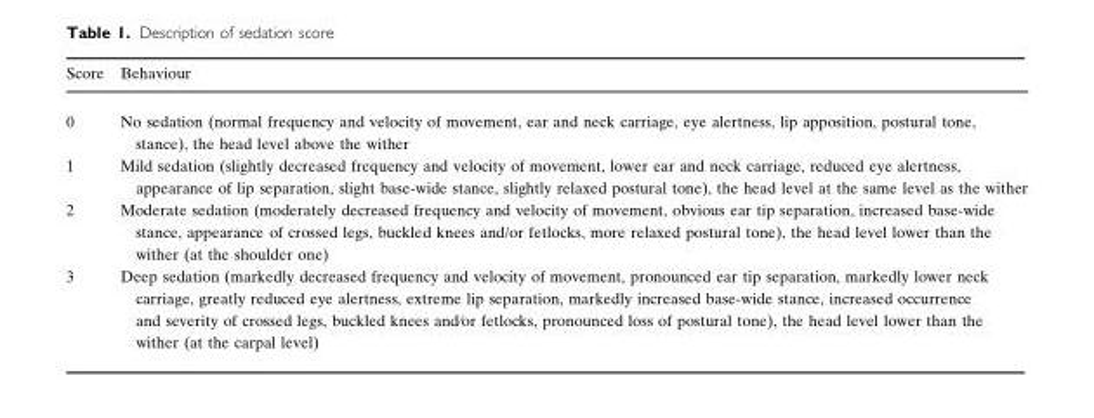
<table><thead><tr><td>Score</td><td>Behaviour</td></tr></thead><tbody><tr><td>0</td><td>No sedation (normal frequency and velocity of movement, ear and neck carriage, eye alertness, lip apposition, postural tone, stance), the head level above the wither</td></tr><tr><td>1</td><td>Mild sedation (slightly decreased frequency and velocity of movement, lower ear and neck carriage, reduced eye alertness, appearance of lip separation, slight base-wide stance, slightly relaxed postural tone), the head level at the same level as the wither</td></tr><tr><td>2</td><td>Moderate sedation (moderately decreased frequency and velocity of movement, obvious ear tip separation, increased base-wide stance, appearance of crossed legs, buckled knees and/or fetlocks, more relaxed postural tone), the head level lower than the wither (at the shoulder one)</td></tr><tr><td>3</td><td>Deep sedation (markedly decreased frequency and velocity of movement, pronounced ear tip separation, markedly lower neck carriage, greatly reduced eye alertness, extreme lip separation, markedly increased base-wide stance, increased occurrence and severity of crossed legs, buckled knees and⁄or fetlocks, pronounced loss of postural tone), the head level lower than the wither (at the carpal level)</td></tr></tbody></table>